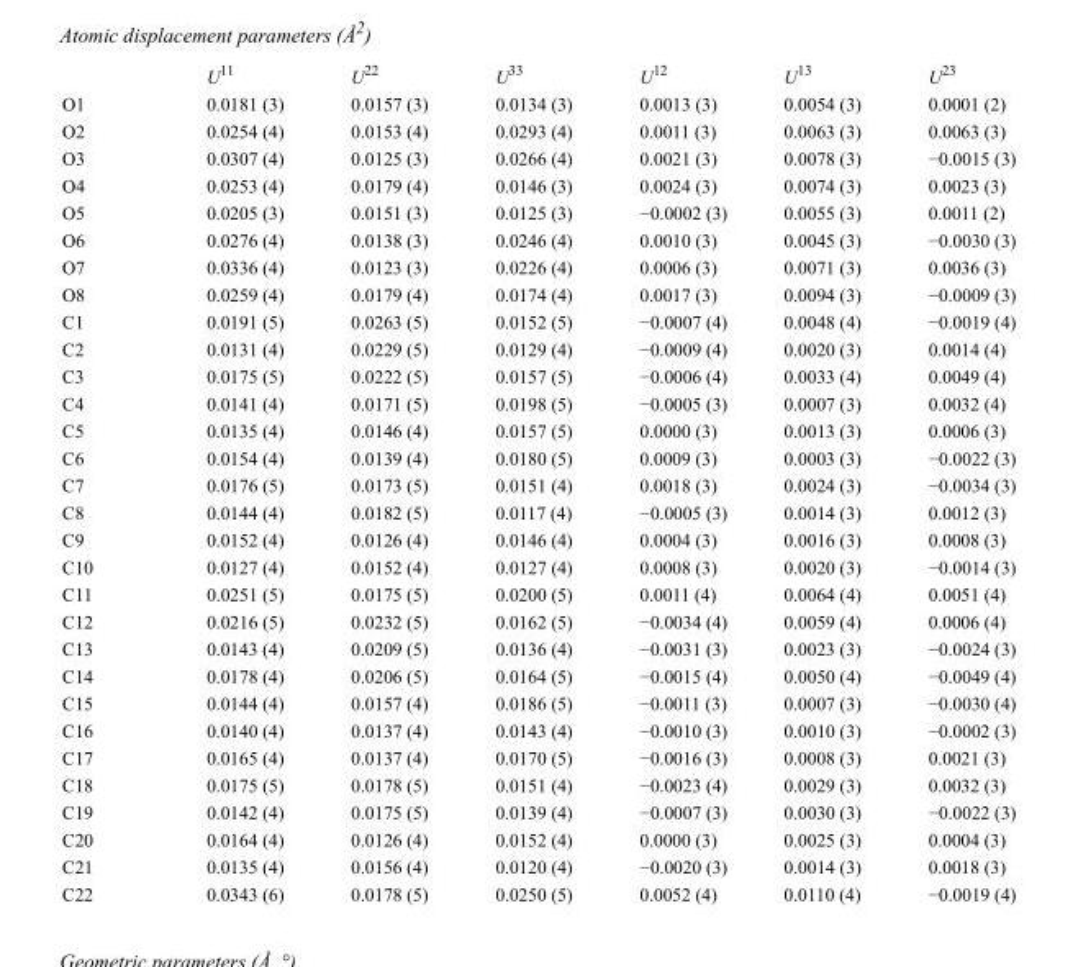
<table><thead><tr><td></td><td>U<sup>11</sup></td><td>U<sup>22</sup></td><td>U<sup>33</sup></td><td>U<sup>12</sup></td><td>U<sup>13</sup></td><td>U<sup>23</sup></td></tr></thead><tbody><tr><td>O1</td><td>0.0181 (3)</td><td>0.0157 (3)</td><td>0.0134 (3)</td><td>0.0013 (3)</td><td>0.0054 (3)</td><td>0.0001 (2)</td></tr><tr><td>O2</td><td>0.0254 (4)</td><td>0.0153 (4)</td><td>0.0293 (4)</td><td>0.0011 (3)</td><td>0.0063 (3)</td><td>0.0063 (3)</td></tr><tr><td>O3</td><td>0.0307 (4)</td><td>0.0125 (3)</td><td>0.0266 (4)</td><td>0.0021 (3)</td><td>0.0078 (3)</td><td>−0.0015 (3)</td></tr><tr><td>O4</td><td>0.0253 (4)</td><td>0.0179 (4)</td><td>0.0146 (3)</td><td>0.0024 (3)</td><td>0.0074 (3)</td><td>0.0023 (3)</td></tr><tr><td>O5</td><td>0.0205 (3)</td><td>0.0151 (3)</td><td>0.0125 (3)</td><td>−0.0002 (3)</td><td>0.0055 (3)</td><td>0.0011 (2)</td></tr><tr><td>O6</td><td>0.0276 (4)</td><td>0.0138 (3)</td><td>0.0246 (4)</td><td>0.0010 (3)</td><td>0.0045 (3)</td><td>−0.0030 (3)</td></tr><tr><td>O7</td><td>0.0336 (4)</td><td>0.0123 (3)</td><td>0.0226 (4)</td><td>0.0006 (3)</td><td>0.0071 (3)</td><td>0.0036 (3)</td></tr><tr><td>O8</td><td>0.0259 (4)</td><td>0.0179 (4)</td><td>0.0174 (4)</td><td>0.0017 (3)</td><td>0.0094 (3)</td><td>−0.0009 (3)</td></tr><tr><td>C1</td><td>0.0191 (5)</td><td>0.0263 (5)</td><td>0.0152 (5)</td><td>−0.0007 (4)</td><td>0.0048 (4)</td><td>−0.0019 (4)</td></tr><tr><td>C2</td><td>0.0131 (4)</td><td>0.0229 (5)</td><td>0.0129 (4)</td><td>−0.0009 (4)</td><td>0.0020 (3)</td><td>0.0014 (4)</td></tr><tr><td>C3</td><td>0.0175 (5)</td><td>0.0222 (5)</td><td>0.0157 (5)</td><td>−0.0006 (4)</td><td>0.0033 (4)</td><td>0.0049 (4)</td></tr><tr><td>C4</td><td>0.0141 (4)</td><td>0.0171 (5)</td><td>0.0198 (5)</td><td>−0.0005 (3)</td><td>0.0007 (3)</td><td>0.0032 (4)</td></tr><tr><td>C5</td><td>0.0135 (4)</td><td>0.0146 (4)</td><td>0.0157 (5)</td><td>0.0000 (3)</td><td>0.0013 (3)</td><td>0.0006 (3)</td></tr><tr><td>C6</td><td>0.0154 (4)</td><td>0.0139 (4)</td><td>0.0180 (5)</td><td>0.0009 (3)</td><td>0.0003 (3)</td><td>−0.0022 (3)</td></tr><tr><td>C7</td><td>0.0176 (5)</td><td>0.0173 (5)</td><td>0.0151 (4)</td><td>0.0018 (3)</td><td>0.0024 (3)</td><td>−0.0034 (3)</td></tr><tr><td>C8</td><td>0.0144 (4)</td><td>0.0182 (5)</td><td>0.0117 (4)</td><td>−0.0005 (3)</td><td>0.0014 (3)</td><td>0.0012 (3)</td></tr><tr><td>C9</td><td>0.0152 (4)</td><td>0.0126 (4)</td><td>0.0146 (4)</td><td>0.0004 (3)</td><td>0.0016 (3)</td><td>0.0008 (3)</td></tr><tr><td>C10</td><td>0.0127 (4)</td><td>0.0152 (4)</td><td>0.0127 (4)</td><td>0.0008 (3)</td><td>0.0020 (3)</td><td>−0.0014 (3)</td></tr><tr><td>C11</td><td>0.0251 (5)</td><td>0.0175 (5)</td><td>0.0200 (5)</td><td>0.0011 (4)</td><td>0.0064 (4)</td><td>0.0051 (4)</td></tr><tr><td>C12</td><td>0.0216 (5)</td><td>0.0232 (5)</td><td>0.0162 (5)</td><td>−0.0034 (4)</td><td>0.0059 (4)</td><td>0.0006 (4)</td></tr><tr><td>C13</td><td>0.0143 (4)</td><td>0.0209 (5)</td><td>0.0136 (4)</td><td>−0.0031 (3)</td><td>0.0023 (3)</td><td>−0.0024 (3)</td></tr><tr><td>C14</td><td>0.0178 (4)</td><td>0.0206 (5)</td><td>0.0164 (5)</td><td>−0.0015 (4)</td><td>0.0050 (4)</td><td>−0.0049 (4)</td></tr><tr><td>C15</td><td>0.0144 (4)</td><td>0.0157 (4)</td><td>0.0186 (5)</td><td>−0.0011 (3)</td><td>0.0007 (3)</td><td>−0.0030 (4)</td></tr><tr><td>C16</td><td>0.0140 (4)</td><td>0.0137 (4)</td><td>0.0143 (4)</td><td>−0.0010 (3)</td><td>0.0010 (3)</td><td>−0.0002 (3)</td></tr><tr><td>C17</td><td>0.0165 (4)</td><td>0.0137 (4)</td><td>0.0170 (5)</td><td>−0.0016 (3)</td><td>0.0008 (3)</td><td>0.0021 (3)</td></tr><tr><td>C18</td><td>0.0175 (5)</td><td>0.0178 (5)</td><td>0.0151 (4)</td><td>−0.0023 (4)</td><td>0.0029 (3)</td><td>0.0032 (3)</td></tr><tr><td>C19</td><td>0.0142 (4)</td><td>0.0175 (5)</td><td>0.0139 (4)</td><td>−0.0007 (3)</td><td>0.0030 (3)</td><td>−0.0022 (3)</td></tr><tr><td>C20</td><td>0.0164 (4)</td><td>0.0126 (4)</td><td>0.0152 (4)</td><td>0.0000 (3)</td><td>0.0025 (3)</td><td>0.0004 (3)</td></tr><tr><td>C21</td><td>0.0135 (4)</td><td>0.0156 (4)</td><td>0.0120 (4)</td><td>−0.0020 (3)</td><td>0.0014 (3)</td><td>0.0018 (3)</td></tr><tr><td>C22</td><td>0.0343 (6)</td><td>0.0178 (5)</td><td>0.0250 (5)</td><td>0.0052 (4)</td><td>0.0110 (4)</td><td>−0.0019 (4)</td></tr></tbody></table>